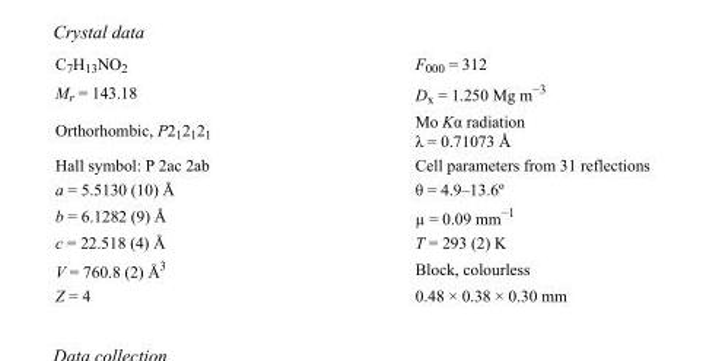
<table><tbody><tr><td>C<sub>7</sub>H<sub>13</sub>NO<sub>2</sub></td><td>F000 = 312</td></tr><tr><td>M<sub>r</sub> = 143.18</td><td>D<sub>x</sub> = 1.250 Mg m<sup>−3</sup></td></tr><tr><td>Orthorhombic, P2<sub>1</sub>2<sub>1</sub>2<sub>1</sub></td><td>Mo Kα radiation λ = 0.71073 Å</td></tr><tr><td>Hall symbol: P 2ac 2ab</td><td>Cell parameters from 31 reflections</td></tr><tr><td>a = 5.5130 (10) Å</td><td>θ = 4.9–13.6º</td></tr><tr><td>b = 6.1282 (9) Å</td><td>µ = 0.09 mm<sup>−1</sup></td></tr><tr><td>c = 22.518 (4) Å</td><td>T = 293 (2) K</td></tr><tr><td>V = 760.8 (2) Å<sup>3</sup></td><td>Block, colourless</td></tr><tr><td>Z = 4</td><td>0.48 × 0.38 × 0.30 mm</td></tr></tbody></table>